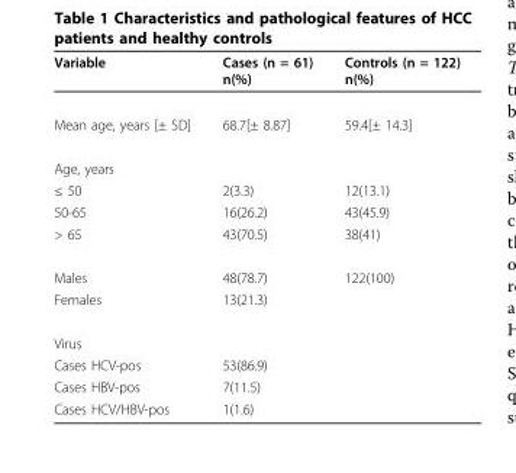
<table><thead><tr><td>Variable</td><td>Cases (n = 61) n(%)</td><td>Controls (n = 122) n(%)</td></tr></thead><tbody><tr><td>Mean age, years [± SD]</td><td>68.7[± 8.87]</td><td>59.4[± 14.3]</td></tr><tr><td colspan="3">Age, years</td></tr><tr><td>≤ 50</td><td>2(3.3)</td><td>12(13.1)</td></tr><tr><td>50-65</td><td>16(26.2)</td><td>43(45.9)</td></tr><tr><td>&gt; 65</td><td>43(70.5)</td><td>38(41)</td></tr><tr><td>Males</td><td>48(78.7)</td><td>122(100)</td></tr><tr><td>Females</td><td>13(21.3)</td><td></td></tr><tr><td colspan="3">Virus</td></tr><tr><td>Cases HCV-pos</td><td>53(86.9)</td><td></td></tr><tr><td>Cases HBV-pos</td><td>7(11.5)</td><td></td></tr><tr><td>Cases HCV/HBV-pos</td><td>1(1.6)</td><td></td></tr></tbody></table>